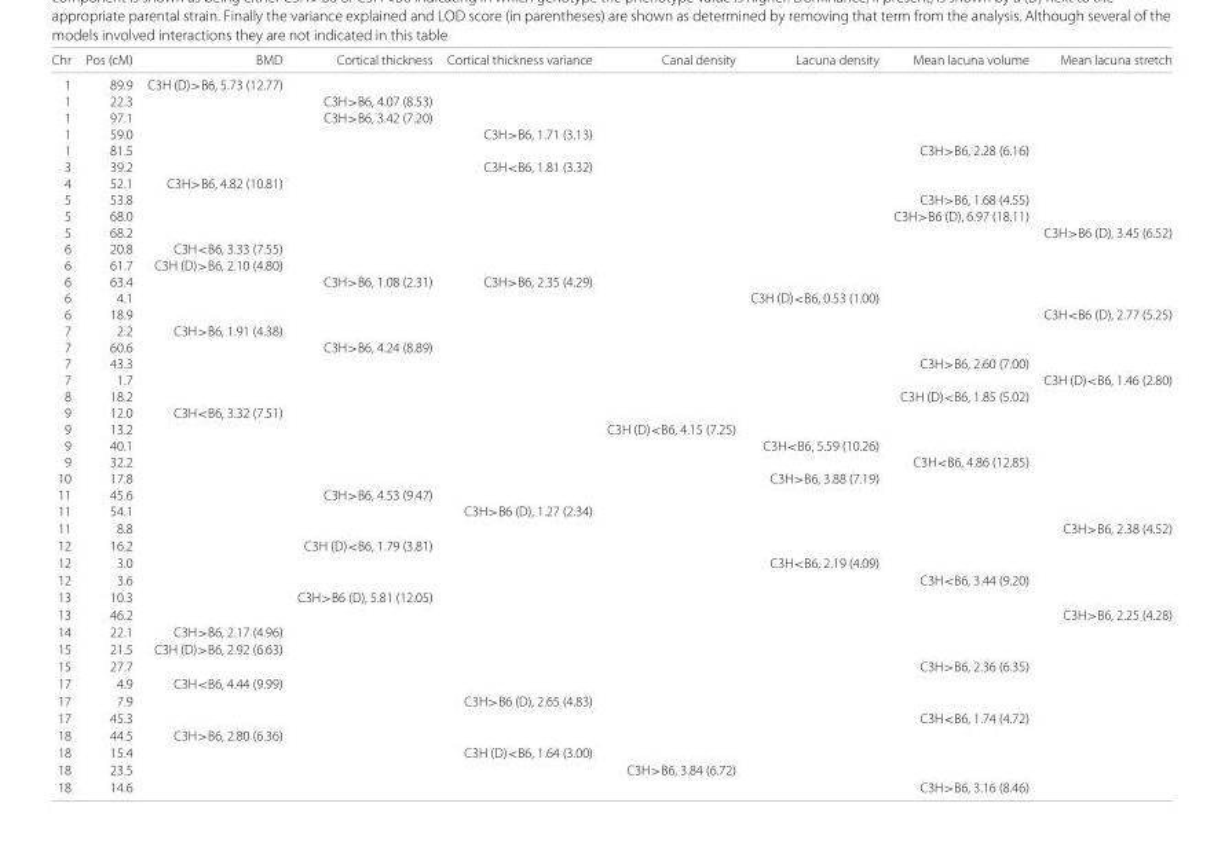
<table><thead><tr><td>Chr</td><td>Pos (cM)</td><td>BMD</td><td>Cortical thickness</td><td>Cortical thickness variance</td><td>Canal density</td><td>Lacuna density</td><td>Mean lacuna volume</td><td>Mean lacuna stretch</td></tr></thead><tbody><tr><td>1</td><td>89.9</td><td>C3H (D)&gt;B6, 5.73 (12.77)</td><td></td><td></td><td></td><td></td><td></td><td></td></tr><tr><td>1</td><td>22.3</td><td></td><td>C3H&gt;B6, 4.07 (8.53)</td><td></td><td></td><td></td><td></td><td></td></tr><tr><td>1</td><td>97.1</td><td></td><td>C3H&gt;B6, 3.42 (7.20)</td><td></td><td></td><td></td><td></td><td></td></tr><tr><td>1</td><td>59.0</td><td></td><td></td><td>C3H&gt;B6, 1.71 (3.13)</td><td></td><td></td><td></td><td></td></tr><tr><td>1</td><td>81.5</td><td></td><td></td><td></td><td></td><td></td><td>C3H&gt;B6, 2.28 (6.16)</td><td></td></tr><tr><td>3</td><td>39.2</td><td></td><td></td><td>C3H&lt;B6, 1.81 (3.32)</td><td></td><td></td><td></td><td></td></tr><tr><td>4</td><td>52.1</td><td>C3H&gt;B6, 4.82 (10.81)</td><td></td><td></td><td></td><td></td><td></td><td></td></tr><tr><td>5</td><td>53.8</td><td></td><td></td><td></td><td></td><td></td><td>C3H&gt;B6, 1.68 (4.55)</td><td></td></tr><tr><td>5</td><td>68.0</td><td></td><td></td><td></td><td></td><td></td><td>C3H&gt;B6 (D), 6.97 (18.11)</td><td></td></tr><tr><td>5</td><td>68.2</td><td></td><td></td><td></td><td></td><td></td><td></td><td>C3H&gt;B6 (D), 3.45 (6.52)</td></tr><tr><td>6</td><td>20.8</td><td>C3H&lt;B6, 3.33 (7.55)</td><td></td><td></td><td></td><td></td><td></td><td></td></tr><tr><td>6</td><td>61.7</td><td>C3H (D)&gt;B6, 2.10 (4.80)</td><td></td><td></td><td></td><td></td><td></td><td></td></tr><tr><td>6</td><td>63.4</td><td></td><td>C3H&gt;B6, 1.08 (2.31)</td><td>C3H&gt;B6, 2.35 (4.29)</td><td></td><td></td><td></td><td></td></tr><tr><td>6</td><td>4.1</td><td></td><td></td><td></td><td></td><td>C3H (D)&lt;B6, 0.53 (1.00)</td><td></td><td></td></tr><tr><td>6</td><td>18.9</td><td></td><td></td><td></td><td></td><td></td><td></td><td>C3H&lt;B6 (D), 2.77 (5.25)</td></tr><tr><td>7</td><td>2.2</td><td>C3H&gt;B6, 1.91 (4.38)</td><td></td><td></td><td></td><td></td><td></td><td></td></tr><tr><td>7</td><td>60.6</td><td></td><td>C3H&gt;B6, 4.24 (8.89)</td><td></td><td></td><td></td><td></td><td></td></tr><tr><td>7</td><td>43.3</td><td></td><td></td><td></td><td></td><td></td><td>C3H&gt;B6, 2.60 (7.00)</td><td></td></tr><tr><td>7</td><td>1.7</td><td></td><td></td><td></td><td></td><td></td><td></td><td>C3H (D)&lt;B6, 1.46 (2.80)</td></tr><tr><td>8</td><td>18.2</td><td></td><td></td><td></td><td></td><td></td><td>C3H (D)&lt;B6, 1.85 (5.02)</td><td></td></tr><tr><td>9</td><td>12.0</td><td>C3H&lt;B6, 3.32 (7.51)</td><td></td><td></td><td></td><td></td><td></td><td></td></tr><tr><td>9</td><td>13.2</td><td></td><td></td><td></td><td>C3H (D)&lt;B6, 4.15 (7.25)</td><td></td><td></td><td></td></tr><tr><td>9</td><td>40.1</td><td></td><td></td><td></td><td></td><td>C3H&lt;B6, 5.59 (10.26)</td><td></td><td></td></tr><tr><td>9</td><td>32.2</td><td></td><td></td><td></td><td></td><td></td><td>C3H&lt;B6, 4.86 (12.85)</td><td></td></tr><tr><td>10</td><td>17.8</td><td></td><td></td><td></td><td></td><td>C3H&gt;B6, 3.88 (7.19)</td><td></td><td></td></tr><tr><td>11</td><td>45.6</td><td></td><td>C3H&gt;B6, 4.53 (9.47)</td><td></td><td></td><td></td><td></td><td></td></tr><tr><td>11</td><td>54.1</td><td></td><td></td><td>C3H&gt;B6 (D), 1.27 (2.34)</td><td></td><td></td><td></td><td></td></tr><tr><td>11</td><td>8.8</td><td></td><td></td><td></td><td></td><td></td><td></td><td>C3H&gt;B6, 2.38 (4.52)</td></tr><tr><td>12</td><td>16.2</td><td></td><td>C3H (D)&lt;B6, 1.79 (3.81)</td><td></td><td></td><td></td><td></td><td></td></tr><tr><td>12</td><td>3.0</td><td></td><td></td><td></td><td></td><td>C3H&lt;B6, 2.19 (4.09)</td><td></td><td></td></tr><tr><td>12</td><td>3.6</td><td></td><td></td><td></td><td></td><td></td><td>C3H&lt;B6, 3.44 (9.20)</td><td></td></tr><tr><td>13</td><td>10.3</td><td></td><td>C3H&gt;B6 (D), 5.81 (12.05)</td><td></td><td></td><td></td><td></td><td></td></tr><tr><td>13</td><td>46.2</td><td></td><td></td><td></td><td></td><td></td><td></td><td>C3H&gt;B6, 2.25 (4.28)</td></tr><tr><td>14</td><td>22.1</td><td>C3H&gt;B6, 2.17 (4.96)</td><td></td><td></td><td></td><td></td><td></td><td></td></tr><tr><td>15</td><td>21.5</td><td>C3H (D)&gt;B6, 2.92 (6.63)</td><td></td><td></td><td></td><td></td><td></td><td></td></tr><tr><td>15</td><td>27.7</td><td></td><td></td><td></td><td></td><td></td><td>C3H&gt;B6, 2.36 (6.35)</td><td></td></tr><tr><td>17</td><td>4.9</td><td>C3H&lt;B6, 4.44 (9.99)</td><td></td><td></td><td></td><td></td><td></td><td></td></tr><tr><td>17</td><td>7.9</td><td></td><td></td><td>C3H&gt;B6 (D), 2.65 (4.83)</td><td></td><td></td><td></td><td></td></tr><tr><td>17</td><td>45.3</td><td></td><td></td><td></td><td></td><td></td><td>C3H&lt;B6, 1.74 (4.72)</td><td></td></tr><tr><td>18</td><td>44.5</td><td>C3H&gt;B6, 2.80 (6.36)</td><td></td><td></td><td></td><td></td><td></td><td></td></tr><tr><td>18</td><td>15.4</td><td></td><td></td><td>C3H (D)&lt;B6, 1.64 (3.00)</td><td></td><td></td><td></td><td></td></tr><tr><td>18</td><td>23.5</td><td></td><td></td><td></td><td>C3H&gt;B6, 3.84 (6.72)</td><td></td><td></td><td></td></tr><tr><td>18</td><td>14.6</td><td></td><td></td><td></td><td></td><td></td><td>C3H&gt;B6, 3.16 (8.46)</td><td></td></tr></tbody></table>